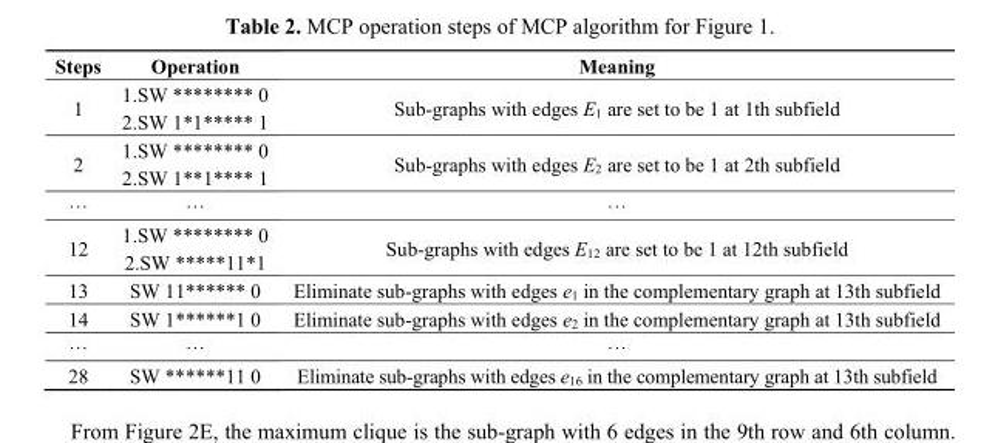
<table><thead><tr><td>Steps</td><td>Operation</td><td>Meaning</td></tr></thead><tbody><tr><td rowspan="2">1</td><td>1.SW ******** 0</td><td rowspan="2">Sub-graphs with edges E<sub>1</sub> are set to be 1 at 1th subfield</td></tr><tr><td>2.SW 1*1***** 1</td></tr><tr><td rowspan="2">2</td><td>1.SW ******** 0</td><td rowspan="2">Sub-graphs with edges E<sub>2</sub> are set to be 1 at 2th subfield</td></tr><tr><td>2.SW 1**1**** 1</td></tr><tr><td>···</td><td>···</td><td>···</td></tr><tr><td rowspan="2">12</td><td>1.SW ******** 0</td><td rowspan="2">Sub-graphs with edges E<sub>12</sub> are set to be 1 at 12th subfield</td></tr><tr><td>2.SW *****11*1</td></tr><tr><td>13</td><td>SW 11****** 0</td><td>Eliminate sub-graphs with edges e<sub>1</sub> in the complementary graph at 13th subfield</td></tr><tr><td>14</td><td>SW 1******1 0</td><td>Eliminate sub-graphs with edges e<sub>2</sub> in the complementary graph at 13th subfield</td></tr><tr><td>···</td><td>···</td><td>···</td></tr><tr><td>28</td><td>SW ******11 0</td><td>Eliminate sub-graphs with edges e<sub>16</sub> in the complementary graph at 13th subfield</td></tr></tbody></table>